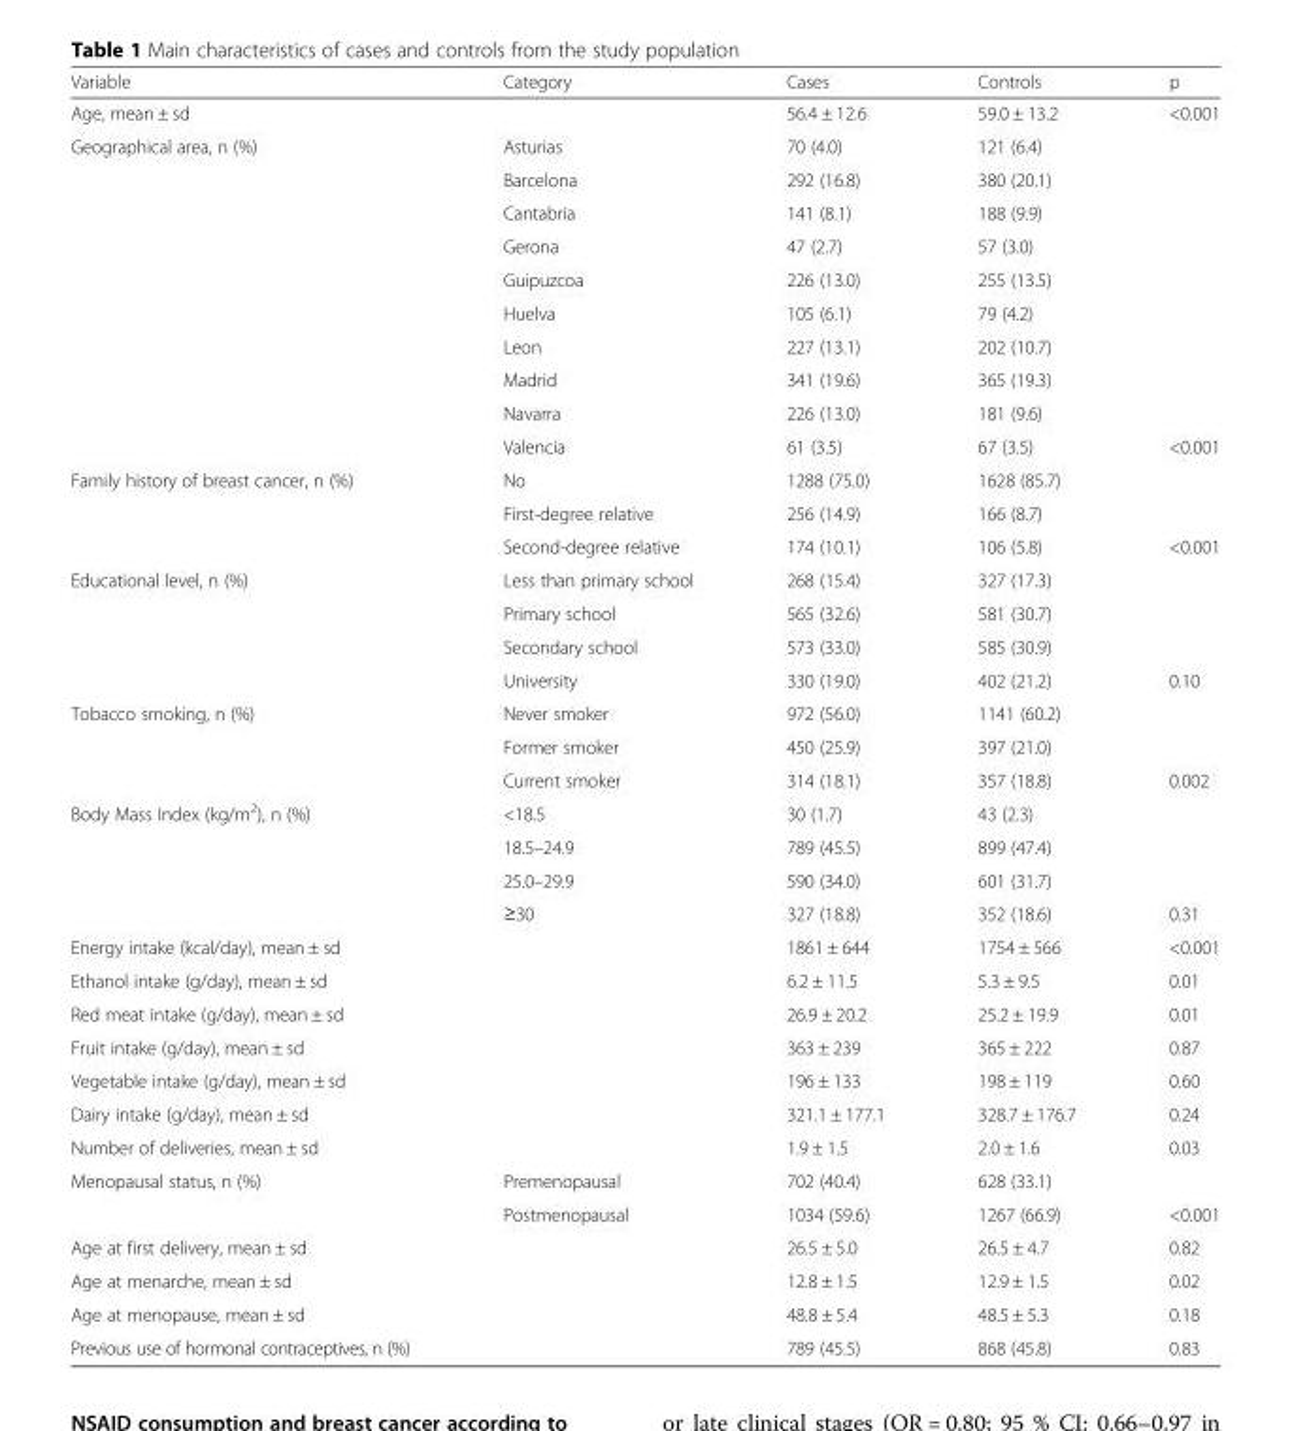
<table><thead><tr><td>Variable</td><td>Category</td><td>Cases</td><td>Controls</td><td>p</td></tr></thead><tbody><tr><td>Age, mean ± sd</td><td></td><td>56.4 ± 12.6</td><td>59.0 ± 13.2</td><td>&lt;0.001</td></tr><tr><td rowspan="10">Geographical area, n (%)</td><td>Asturias</td><td>70 (4.0)</td><td>121 (6.4)</td><td></td></tr><tr><td>Barcelona</td><td>292 (16.8)</td><td>380 (20.1)</td><td></td></tr><tr><td>Cantabria</td><td>141 (8.1)</td><td>188 (9.9)</td><td></td></tr><tr><td>Gerona</td><td>47 (2.7)</td><td>57 (3.0)</td><td></td></tr><tr><td>Guipuzcoa</td><td>226 (13.0)</td><td>255 (13.5)</td><td></td></tr><tr><td>Huelva</td><td>105 (6.1)</td><td>79 (4.2)</td><td></td></tr><tr><td>Leon</td><td>227 (13.1)</td><td>202 (10.7)</td><td></td></tr><tr><td>Madrid</td><td>341 (19.6)</td><td>365 (19.3)</td><td></td></tr><tr><td>Navarra</td><td>226 (13.0)</td><td>181 (9.6)</td><td></td></tr><tr><td>Valencia</td><td>61 (3.5)</td><td>67 (3.5)</td><td>&lt;0.001</td></tr><tr><td rowspan="3">Family history of breast cancer, n (%)</td><td>No</td><td>1288 (75.0)</td><td>1628 (85.7)</td><td></td></tr><tr><td>First-degree relative</td><td>256 (14.9)</td><td>166 (8.7)</td><td></td></tr><tr><td>Second-degree relative</td><td>174 (10.1)</td><td>106 (5.8)</td><td>&lt;0.001</td></tr><tr><td rowspan="4">Educational level, n (%)</td><td>Less than primary school</td><td>268 (15.4)</td><td>327 (17.3)</td><td></td></tr><tr><td>Primary school</td><td>565 (32.6)</td><td>581 (30.7)</td><td></td></tr><tr><td>Secondary school</td><td>573 (33.0)</td><td>585 (30.9)</td><td></td></tr><tr><td>University</td><td>330 (19.0)</td><td>402 (21.2)</td><td>0.10</td></tr><tr><td rowspan="3">Tobacco smoking, n (%)</td><td>Never smoker</td><td>972 (56.0)</td><td>1141 (60.2)</td><td></td></tr><tr><td>Former smoker</td><td>450 (25.9)</td><td>397 (21.0)</td><td></td></tr><tr><td>Current smoker</td><td>314 (18.1)</td><td>357 (18.8)</td><td>0.002</td></tr><tr><td rowspan="4">Body Mass Index (kg/m<sup>2</sup>), n (%)</td><td>&lt;18.5</td><td>30 (1.7)</td><td>43 (2.3)</td><td></td></tr><tr><td>18.5–24.9</td><td>789 (45.5)</td><td>899 (47.4)</td><td></td></tr><tr><td>25.0–29.9</td><td>590 (34.0)</td><td>601 (31.7)</td><td></td></tr><tr><td>≥30</td><td>327 (18.8)</td><td>352 (18.6)</td><td>0.31</td></tr><tr><td>Energy intake (kcal/day), mean ± sd</td><td></td><td>1861 ± 644</td><td>1754 ± 566</td><td>&lt;0.001</td></tr><tr><td>Ethanol intake (g/day), mean ± sd</td><td></td><td>6.2 ± 11.5</td><td>5.3 ± 9.5</td><td>0.01</td></tr><tr><td>Red meat intake (g/day), mean ± sd</td><td></td><td>26.9 ± 20.2</td><td>25.2 ± 19.9</td><td>0.01</td></tr><tr><td>Fruit intake (g/day), mean ± sd</td><td></td><td>363 ± 239</td><td>365 ± 222</td><td>0.87</td></tr><tr><td>Vegetable intake (g/day), mean ± sd</td><td></td><td>196 ± 133</td><td>198 ± 119</td><td>0.60</td></tr><tr><td>Dairy intake (g/day), mean ± sd</td><td></td><td>321.1 ± 177.1</td><td>328.7 ± 176.7</td><td>0.24</td></tr><tr><td>Number of deliveries, mean ± sd</td><td></td><td>1.9 ± 1.5</td><td>2.0 ± 1.6</td><td>0.03</td></tr><tr><td rowspan="2">Menopausal status, n (%)</td><td>Premenopausal</td><td>702 (40.4)</td><td>628 (33.1)</td><td></td></tr><tr><td>Postmenopausal</td><td>1034 (59.6)</td><td>1267 (66.9)</td><td>&lt;0.001</td></tr><tr><td>Age at first delivery, mean ± sd</td><td></td><td>26.5 ± 5.0</td><td>26.5 ± 4.7</td><td>0.82</td></tr><tr><td>Age at menarche, mean ± sd</td><td></td><td>12.8 ± 1.5</td><td>12.9 ± 1.5</td><td>0.02</td></tr><tr><td>Age at menopause, mean ± sd</td><td></td><td>48.8 ± 5.4</td><td>48.5 ± 5.3</td><td>0.18</td></tr><tr><td>Previous use of hormonal contraceptives, n (%)</td><td></td><td>789 (45.5)</td><td>868 (45.8)</td><td>0.83</td></tr></tbody></table>